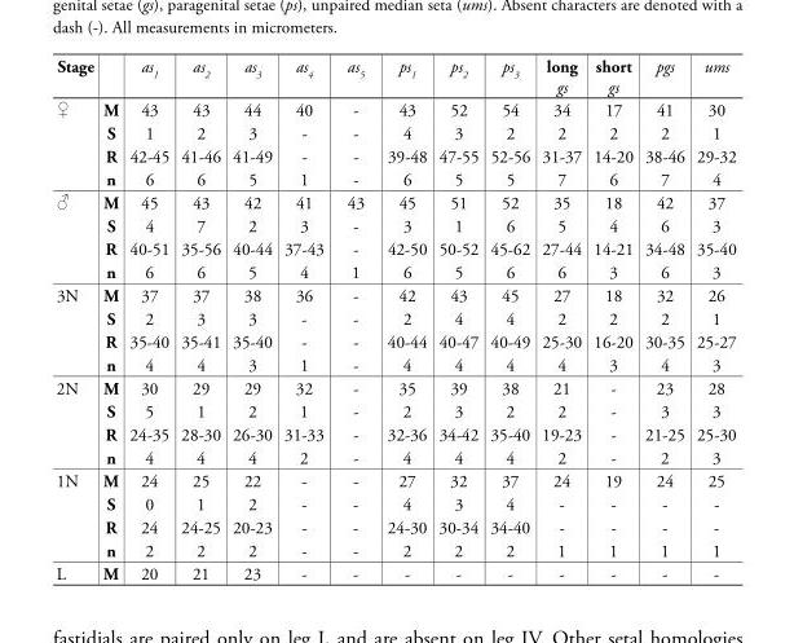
<table><tbody><tr><td>Stage</td><td></td><td>as1</td><td>as2</td><td>as3</td><td>as4</td><td>as5</td><td>ps1</td><td>ps2</td><td>ps3</td><td>long gs</td><td>short gs</td><td>pgs</td><td>ums</td></tr><tr><td rowspan="4">♀</td><td>M</td><td>43</td><td>43</td><td>44</td><td>40</td><td>-</td><td>43</td><td>52</td><td>54</td><td>34</td><td>17</td><td>41</td><td>30</td></tr><tr><td>S</td><td>1</td><td>2</td><td>3</td><td>-</td><td>-</td><td>4</td><td>3</td><td>2</td><td>2</td><td>2</td><td>2</td><td>1</td></tr><tr><td>R</td><td>42-45</td><td>41-46</td><td>41-49</td><td>-</td><td>-</td><td>39-48</td><td>47-55</td><td>52-56</td><td>31-37</td><td>14-20</td><td>38-46</td><td>29-32</td></tr><tr><td>n</td><td>6</td><td>6</td><td>5</td><td>1</td><td>-</td><td>6</td><td>5</td><td>5</td><td>7</td><td>6</td><td>7</td><td>4</td></tr><tr><td rowspan="4">♂</td><td>M</td><td>45</td><td>43</td><td>42</td><td>41</td><td>43</td><td>45</td><td>51</td><td>52</td><td>35</td><td>18</td><td>42</td><td>37</td></tr><tr><td>S</td><td>4</td><td>7</td><td>2</td><td>3</td><td>-</td><td>3</td><td>1</td><td>6</td><td>5</td><td>4</td><td>6</td><td>3</td></tr><tr><td>R</td><td>40-51</td><td>35-56</td><td>40-44</td><td>37-43</td><td>-</td><td>42-50</td><td>50-52</td><td>45-62</td><td>27-44</td><td>14-21</td><td>34-48</td><td>35-40</td></tr><tr><td>n</td><td>6</td><td>6</td><td>5</td><td>4</td><td>1</td><td>6</td><td>5</td><td>6</td><td>6</td><td>3</td><td>6</td><td>3</td></tr><tr><td rowspan="4">3N</td><td>M</td><td>37</td><td>37</td><td>38</td><td>36</td><td>-</td><td>42</td><td>43</td><td>45</td><td>27</td><td>18</td><td>32</td><td>26</td></tr><tr><td>S</td><td>2</td><td>3</td><td>3</td><td>-</td><td>-</td><td>2</td><td>4</td><td>4</td><td>2</td><td>2</td><td>2</td><td>1</td></tr><tr><td>R</td><td>35-40</td><td>35-41</td><td>35-40</td><td>-</td><td>-</td><td>40-44</td><td>40-47</td><td>40-49</td><td>25-30</td><td>16-20</td><td>30-35</td><td>25-27</td></tr><tr><td>n</td><td>4</td><td>4</td><td>3</td><td>1</td><td>-</td><td>4</td><td>4</td><td>4</td><td>4</td><td>3</td><td>4</td><td>3</td></tr><tr><td rowspan="4">2N</td><td>M</td><td>30</td><td>29</td><td>29</td><td>32</td><td>-</td><td>35</td><td>39</td><td>38</td><td>21</td><td>-</td><td>23</td><td>28</td></tr><tr><td>S</td><td>5</td><td>1</td><td>2</td><td>1</td><td>-</td><td>2</td><td>3</td><td>2</td><td>2</td><td>-</td><td>3</td><td>3</td></tr><tr><td>R</td><td>24-35</td><td>28-30</td><td>26-30</td><td>31-33</td><td>-</td><td>32-36</td><td>34-42</td><td>35-40</td><td>19-23</td><td>-</td><td>21-25</td><td>25-30</td></tr><tr><td>n</td><td>4</td><td>4</td><td>4</td><td>2</td><td>-</td><td>4</td><td>4</td><td>4</td><td>2</td><td>-</td><td>2</td><td>3</td></tr><tr><td rowspan="4">1N</td><td>M</td><td>24</td><td>25</td><td>22</td><td>-</td><td>-</td><td>27</td><td>32</td><td>37</td><td>24</td><td>19</td><td>24</td><td>25</td></tr><tr><td>S</td><td>0</td><td>1</td><td>2</td><td>-</td><td>-</td><td>4</td><td>3</td><td>4</td><td>-</td><td>-</td><td>-</td><td>-</td></tr><tr><td>R</td><td>24</td><td>24-25</td><td>20-23</td><td>-</td><td>-</td><td>24-30</td><td>30-34</td><td>34-40</td><td>-</td><td>-</td><td>-</td><td>-</td></tr><tr><td>n</td><td>2</td><td>2</td><td>2</td><td>-</td><td>-</td><td>2</td><td>2</td><td>2</td><td>1</td><td>1</td><td>1</td><td>1</td></tr><tr><td>L</td><td>M</td><td>20</td><td>21</td><td>23</td><td>-</td><td>-</td><td>-</td><td>-</td><td>-</td><td>-</td><td>-</td><td>-</td><td>-</td></tr></tbody></table>